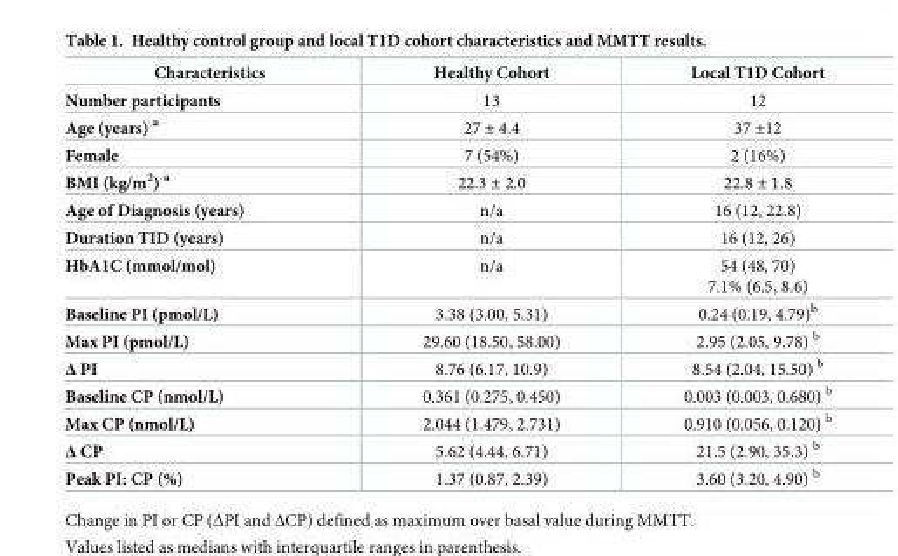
<table><thead><tr><td>Characteristics</td><td>Healthy Cohort</td><td>Local T1D Cohort</td></tr></thead><tbody><tr><td>Number participants</td><td>13</td><td>12</td></tr><tr><td>Age (years) <sup>a</sup></td><td>27 ± 4.4</td><td>37 ±12</td></tr><tr><td>Female</td><td>7 (54%)</td><td>2 (16%)</td></tr><tr><td>BMI (kg/m<sup>2</sup>) <sup>a</sup></td><td>22.3 ± 2.0</td><td>22.8 ± 1.8</td></tr><tr><td>Age of Diagnosis (years)</td><td>n/a</td><td>16 (12, 22.8)</td></tr><tr><td>Duration TID (years)</td><td>n/a</td><td>16 (12, 26)</td></tr><tr><td>HbA1C (mmol/mol)</td><td>n/a</td><td>54 (48, 70) 7.1% (6.5, 8.6)</td></tr><tr><td>Baseline PI (pmol/L)</td><td>3.38 (3.00, 5.31)</td><td>0.24 (0.19, 4.79)<sup>b</sup></td></tr><tr><td>Max PI (pmol/L)</td><td>29.60 (18.50, 58.00)</td><td>2.95 (2.05, 9.78) <sup>b</sup></td></tr><tr><td>Δ PI</td><td>8.76 (6.17, 10.9)</td><td>8.54 (2.04, 15.50) <sup>b</sup></td></tr><tr><td>Baseline CP (nmol/L)</td><td>0.361 (0.275, 0.450)</td><td>0.003 (0.003, 0.680) <sup>b</sup></td></tr><tr><td>Max CP (nmol/L)</td><td>2.044 (1.479, 2.731)</td><td>0.910 (0.056, 0.120) <sup>b</sup></td></tr><tr><td>Δ CP</td><td>5.62 (4.44, 6.71)</td><td>21.5 (2.90, 35.3) <sup>b</sup></td></tr><tr><td>Peak PI: CP (%)</td><td>1.37 (0.87, 2.39)</td><td>3.60 (3.20, 4.90) <sup>b</sup></td></tr></tbody></table>